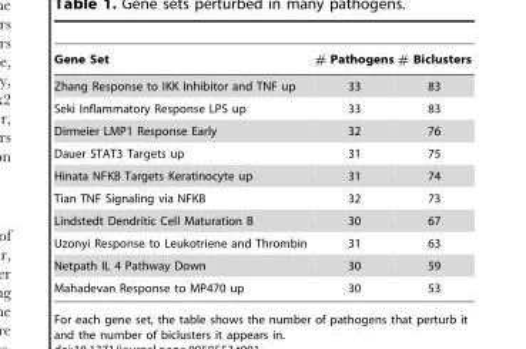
<table><thead><tr><td>Gene Set</td><td># Pathogens</td><td># Biclusters</td></tr></thead><tbody><tr><td>Zhang Response to IKK Inhibitor and TNF up</td><td>33</td><td>83</td></tr><tr><td>Seki Inflammatory Response LPS up</td><td>33</td><td>83</td></tr><tr><td>Dirmeier LMP1 Response Early</td><td>32</td><td>76</td></tr><tr><td>Dauer STAT3 Targets up</td><td>31</td><td>75</td></tr><tr><td>Hinata NFKB Targets Keratinocyte up</td><td>31</td><td>74</td></tr><tr><td>Tian TNF Signaling via NFKB</td><td>32</td><td>73</td></tr><tr><td>Lindstedt Dendritic Cell Maturation B</td><td>30</td><td>67</td></tr><tr><td>Uzonyi Response to Leukotriene and Thrombin</td><td>31</td><td>63</td></tr><tr><td>Netpath IL 4 Pathway Down</td><td>30</td><td>59</td></tr><tr><td>Mahadevan Response to MP470 up</td><td>30</td><td>53</td></tr></tbody></table>